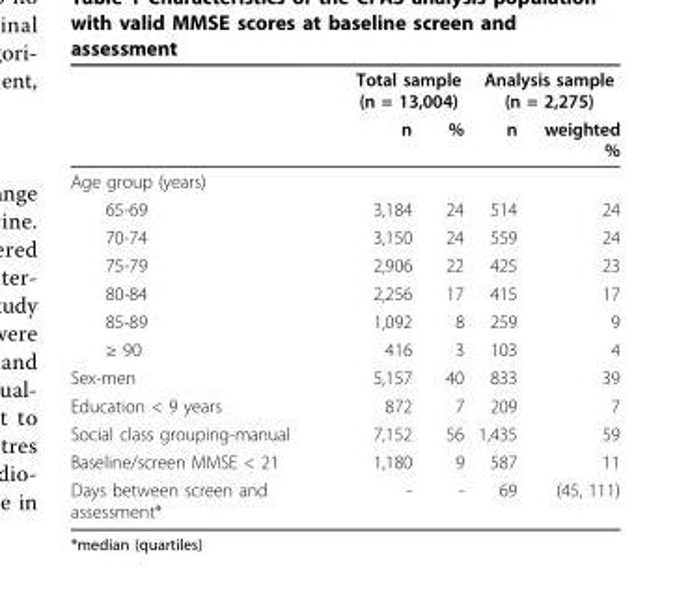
<table><thead><tr><td rowspan="2"></td><td colspan="2">Total sample (n = 13,004)</td><td colspan="2">Analysis sample (n = 2,275)</td></tr><tr><td>n</td><td>%</td><td>n</td><td>weighted %</td></tr></thead><tbody><tr><td colspan="5">Age group (years)</td></tr><tr><td>65-69</td><td>3,184</td><td>24</td><td>514</td><td>24</td></tr><tr><td>70-74</td><td>3,150</td><td>24</td><td>559</td><td>24</td></tr><tr><td>75-79</td><td>2,906</td><td>22</td><td>425</td><td>23</td></tr><tr><td>80-84</td><td>2,256</td><td>17</td><td>415</td><td>17</td></tr><tr><td>85-89</td><td>1,092</td><td>8</td><td>259</td><td>9</td></tr><tr><td>≥ 90</td><td>416</td><td>3</td><td>103</td><td>4</td></tr><tr><td>Sex-men</td><td>5,157</td><td>40</td><td>833</td><td>39</td></tr><tr><td>Education &lt; 9 years</td><td>872</td><td>7</td><td>209</td><td>7</td></tr><tr><td>Social class grouping-manual</td><td>7,152</td><td>56</td><td>1,435</td><td>59</td></tr><tr><td>Baseline/screen MMSE &lt; 21</td><td>1,180</td><td>9</td><td>587</td><td>11</td></tr><tr><td>Days between screen and assessment*</td><td>-</td><td>-</td><td>69</td><td>(45, 111)</td></tr></tbody></table>